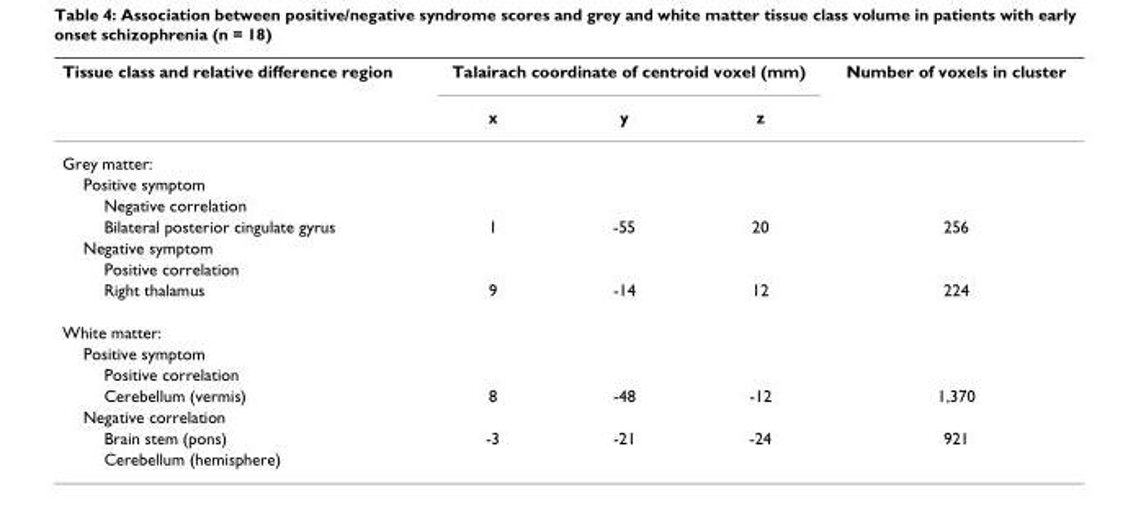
<table><thead><tr><td rowspan="2">Tissue class and relative difference region</td><td colspan="3">Talairach coordinate of centroid voxel (mm)</td><td rowspan="2">Number of voxels in cluster</td></tr><tr><td>x</td><td>y</td><td>z</td></tr></thead><tbody><tr><td colspan="5">Grey matter:</td></tr><tr><td colspan="5">Positive symptom</td></tr><tr><td colspan="5">Negative correlation</td></tr><tr><td>Bilateral posterior cingulate gyrus</td><td>1</td><td>-55</td><td>20</td><td>256</td></tr><tr><td colspan="5">Negative symptom</td></tr><tr><td colspan="5">Positive correlation</td></tr><tr><td>Right thalamus</td><td>9</td><td>-14</td><td>12</td><td>224</td></tr><tr><td colspan="5">White matter:</td></tr><tr><td colspan="5">Positive symptom</td></tr><tr><td colspan="5">Positive correlation</td></tr><tr><td>Cerebellum (vermis)</td><td>8</td><td>-48</td><td>-12</td><td>1,370</td></tr><tr><td colspan="5">Negative correlation</td></tr><tr><td>Brain stem (pons)</td><td>-3</td><td>-21</td><td>-24</td><td>921</td></tr><tr><td>Cerebellum (hemisphere)</td><td></td><td></td><td></td><td></td></tr></tbody></table>